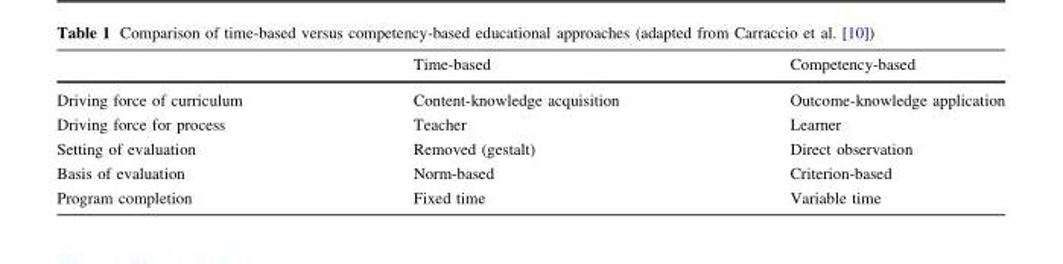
<table><thead><tr><td></td><td>Time-based</td><td>Competency-based</td></tr></thead><tbody><tr><td>Driving force of curriculum</td><td>Content-knowledge acquisition</td><td>Outcome-knowledge application</td></tr><tr><td>Driving force for process</td><td>Teacher</td><td>Learner</td></tr><tr><td>Setting of evaluation</td><td>Removed (gestalt)</td><td>Direct observation</td></tr><tr><td>Basis of evaluation</td><td>Norm-based</td><td>Criterion-based</td></tr><tr><td>Program completion</td><td>Fixed time</td><td>Variable time</td></tr></tbody></table>